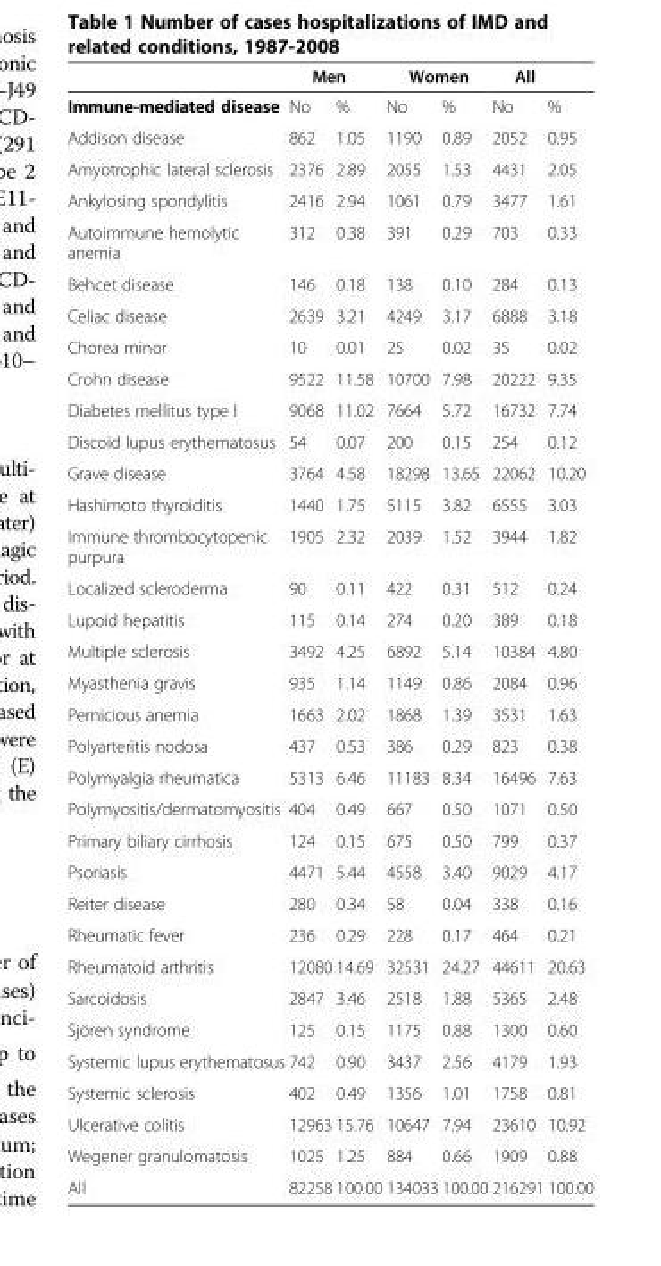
<table><thead><tr><td rowspan="2">Immune-mediated disease</td><td colspan="2">Men</td><td colspan="2">Women</td><td colspan="2">All</td></tr><tr><td>No</td><td>%</td><td>No</td><td>%</td><td>No</td><td>%</td></tr></thead><tbody><tr><td>Addison disease</td><td>862</td><td>1.05</td><td>1190</td><td>0.89</td><td>2052</td><td>0.95</td></tr><tr><td>Amyotrophic lateral sclerosis</td><td>2376</td><td>2.89</td><td>2055</td><td>1.53</td><td>4431</td><td>2.05</td></tr><tr><td>Ankylosing spondylitis</td><td>2416</td><td>2.94</td><td>1061</td><td>0.79</td><td>3477</td><td>1.61</td></tr><tr><td>Autoimmune hemolytic anemia</td><td>312</td><td>0.38</td><td>391</td><td>0.29</td><td>703</td><td>0.33</td></tr><tr><td>Behcet disease</td><td>146</td><td>0.18</td><td>138</td><td>0.10</td><td>284</td><td>0.13</td></tr><tr><td>Celiac disease</td><td>2639</td><td>3.21</td><td>4249</td><td>3.17</td><td>6888</td><td>3.18</td></tr><tr><td>Chorea minor</td><td>10</td><td>0.01</td><td>25</td><td>0.02</td><td>35</td><td>0.02</td></tr><tr><td>Crohn disease</td><td>9522</td><td>11.58</td><td>10700</td><td>7.98</td><td>20222</td><td>9.35</td></tr><tr><td>Diabetes mellitus type I</td><td>9068</td><td>11.02</td><td>7664</td><td>5.72</td><td>16732</td><td>7.74</td></tr><tr><td>Discoid lupus erythematosus</td><td>54</td><td>0.07</td><td>200</td><td>0.15</td><td>254</td><td>0.12</td></tr><tr><td>Grave disease</td><td>3764</td><td>4.58</td><td>18298</td><td>13.65</td><td>22062</td><td>10.20</td></tr><tr><td>Hashimoto thyroiditis</td><td>1440</td><td>1.75</td><td>5115</td><td>3.82</td><td>6555</td><td>3.03</td></tr><tr><td>Immune thrombocytopenic purpura</td><td>1905</td><td>2.32</td><td>2039</td><td>1.52</td><td>3944</td><td>1.82</td></tr><tr><td>Localized scleroderma</td><td>90</td><td>0.11</td><td>422</td><td>0.31</td><td>512</td><td>0.24</td></tr><tr><td>Lupoid hepatitis</td><td>115</td><td>0.14</td><td>274</td><td>0.20</td><td>389</td><td>0.18</td></tr><tr><td>Multiple sclerosis</td><td>3492</td><td>4.25</td><td>6892</td><td>5.14</td><td>10384</td><td>4.80</td></tr><tr><td>Myasthenia gravis</td><td>935</td><td>1.14</td><td>1149</td><td>0.86</td><td>2084</td><td>0.96</td></tr><tr><td>Pernicious anemia</td><td>1663</td><td>2.02</td><td>1868</td><td>1.39</td><td>3531</td><td>1.63</td></tr><tr><td>Polyarteritis nodosa</td><td>437</td><td>0.53</td><td>386</td><td>0.29</td><td>823</td><td>0.38</td></tr><tr><td>Polymyalgia rheumatica</td><td>5313</td><td>6.46</td><td>11183</td><td>8.34</td><td>16496</td><td>7.63</td></tr><tr><td>Polymyositis/dermatomyositis</td><td>404</td><td>0.49</td><td>667</td><td>0.50</td><td>1071</td><td>0.50</td></tr><tr><td>Primary biliary cirrhosis</td><td>124</td><td>0.15</td><td>675</td><td>0.50</td><td>799</td><td>0.37</td></tr><tr><td>Psoriasis</td><td>4471</td><td>5.44</td><td>4558</td><td>3.40</td><td>9029</td><td>4.17</td></tr><tr><td>Reiter disease</td><td>280</td><td>0.34</td><td>58</td><td>0.04</td><td>338</td><td>0.16</td></tr><tr><td>Rheumatic fever</td><td>236</td><td>0.29</td><td>228</td><td>0.17</td><td>464</td><td>0.21</td></tr><tr><td>Rheumatoid arthritis</td><td>12080</td><td>14.69</td><td>32531</td><td>24.27</td><td>44611</td><td>20.63</td></tr><tr><td>Sarcoidosis</td><td>2847</td><td>3.46</td><td>2518</td><td>1.88</td><td>5365</td><td>2.48</td></tr><tr><td>Sjören syndrome</td><td>125</td><td>0.15</td><td>1175</td><td>0.88</td><td>1300</td><td>0.60</td></tr><tr><td>Systemic lupus erythematosus</td><td>742</td><td>0.90</td><td>3437</td><td>2.56</td><td>4179</td><td>1.93</td></tr><tr><td>Systemic sclerosis</td><td>402</td><td>0.49</td><td>1356</td><td>1.01</td><td>1758</td><td>0.81</td></tr><tr><td>Ulcerative colitis</td><td>12963</td><td>15.76</td><td>10647</td><td>7.94</td><td>23610</td><td>10.92</td></tr><tr><td>Wegener granulomatosis</td><td>1025</td><td>1.25</td><td>884</td><td>0.66</td><td>1909</td><td>0.88</td></tr><tr><td>All</td><td>82258</td><td>100.00</td><td>134033</td><td>100.00</td><td>216291</td><td>100.00</td></tr></tbody></table>